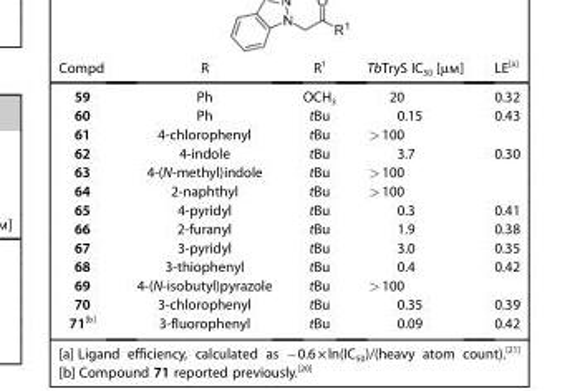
<table><thead><tr><td>Compd</td><td>R</td><td>R<sup>1</sup></td><td>TbTryS IC<sub>50</sub> [μm]</td><td>LE<sup>[a]</sup></td></tr></thead><tbody><tr><td>59</td><td>Ph</td><td>OCH<sub>3</sub></td><td>20</td><td>0.32</td></tr><tr><td>60</td><td>Ph</td><td>tBu</td><td>0.15</td><td>0.43</td></tr><tr><td>61</td><td>4-chlorophenyl</td><td>tBu</td><td>&gt;100</td><td></td></tr><tr><td>62</td><td>4-indole</td><td>tBu</td><td>3.7</td><td>0.30</td></tr><tr><td>63</td><td>4-(N-methyl)indole</td><td>tBu</td><td>&gt;100</td><td></td></tr><tr><td>64</td><td>2-naphthyl</td><td>tBu</td><td>&gt;100</td><td></td></tr><tr><td>65</td><td>4-pyridyl</td><td>tBu</td><td>0.3</td><td>0.41</td></tr><tr><td>66</td><td>2-furanyl</td><td>tBu</td><td>1.9</td><td>0.38</td></tr><tr><td>67</td><td>3-pyridyl</td><td>tBu</td><td>3.0</td><td>0.35</td></tr><tr><td>68</td><td>3-thiophenyl</td><td>tBu</td><td>0.4</td><td>0.42</td></tr><tr><td>69</td><td>4-(N-isobutyl)pyrazole</td><td>tBu</td><td>&gt;100</td><td></td></tr><tr><td>70</td><td>3-chlorophenyl</td><td>tBu</td><td>0.35</td><td>0.39</td></tr><tr><td>71<sup>[b]</sup></td><td>3-fluorophenyl</td><td>tBu</td><td>0.09</td><td>0.42</td></tr></tbody></table>